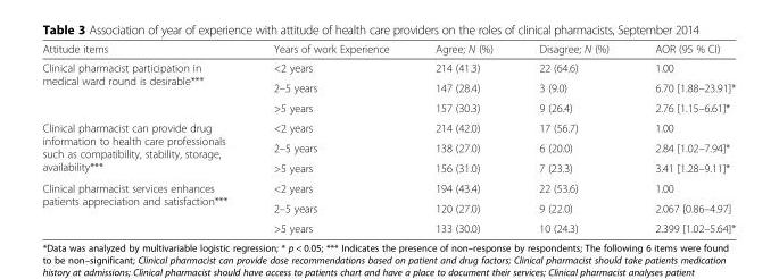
<table><thead><tr><td>Attitude items</td><td>Years of work Experience</td><td>Agree; N (%)</td><td>Disagree; N (%)</td><td>AOR (95 % CI)</td></tr></thead><tbody><tr><td rowspan="3">Clinical pharmacist participation in medical ward round is desirable***</td><td>&lt;2 years</td><td>214 (41.3)</td><td>22 (64.6)</td><td>1.00</td></tr><tr><td>2–5 years</td><td>147 (28.4)</td><td>3 (9.0)</td><td>6.70 [1.88–23.91]*</td></tr><tr><td>&gt;5 years</td><td>157 (30.3)</td><td>9 (26.4)</td><td>2.76 [1.15–6.61]*</td></tr><tr><td rowspan="3">Clinical pharmacist can provide drug information to health care professionals such as compatibility, stability, storage, availability***</td><td>&lt;2 years</td><td>214 (42.0)</td><td>17 (56.7)</td><td>1.00</td></tr><tr><td>2–5 years</td><td>138 (27.0)</td><td>6 (20.0)</td><td>2.84 [1.02–7.94]*</td></tr><tr><td>&gt;5 years</td><td>156 (31.0)</td><td>7 (23.3)</td><td>3.41 [1.28–9.11]*</td></tr><tr><td rowspan="3">Clinical pharmacist services enhances patients appreciation and satisfaction***</td><td>&lt;2 years</td><td>194 (43.4)</td><td>22 (53.6)</td><td>1.00</td></tr><tr><td>2–5 years</td><td>120 (27.0)</td><td>9 (22.0)</td><td>2.067 [0.86–4.97]</td></tr><tr><td>&gt;5 years</td><td>133 (30.0)</td><td>10 (24.3)</td><td>2.399 [1.02–5.64]*</td></tr></tbody></table>